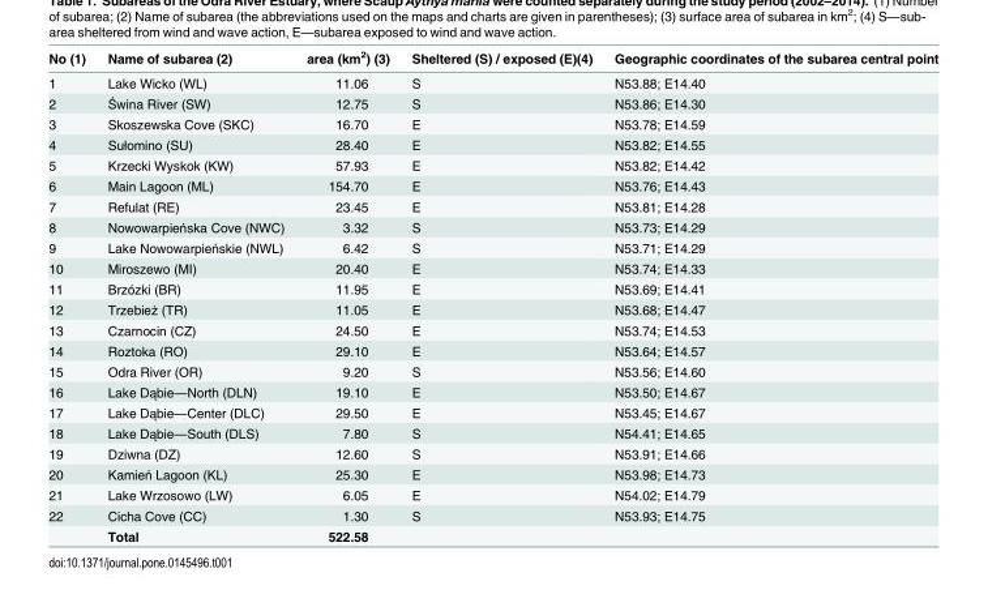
<table><thead><tr><td>No (1)</td><td>Name of subarea (2)</td><td>area (km<sup>2</sup>) (3)</td><td>Sheltered (S) / exposed (E)(4)</td><td>Geographic coordinates of the subarea central point</td></tr></thead><tbody><tr><td>1</td><td>Lake Wicko (WL)</td><td>11.06</td><td>S</td><td>N53.88; E14.40</td></tr><tr><td>2</td><td>Świna River (SW)</td><td>12.75</td><td>S</td><td>N53.86; E14.30</td></tr><tr><td>3</td><td>Skoszewska Cove (SKC)</td><td>16.70</td><td>E</td><td>N53.78; E14.59</td></tr><tr><td>4</td><td>Sułomino (SU)</td><td>28.40</td><td>E</td><td>N53.82; E14.55</td></tr><tr><td>5</td><td>Krzecki Wyskok (KW)</td><td>57.93</td><td>E</td><td>N53.82; E14.42</td></tr><tr><td>6</td><td>Main Lagoon (ML)</td><td>154.70</td><td>E</td><td>N53.76; E14.43</td></tr><tr><td>7</td><td>Refulat (RE)</td><td>23.45</td><td>E</td><td>N53.81; E14.28</td></tr><tr><td>8</td><td>Nowowarpieńska Cove (NWC)</td><td>3.32</td><td>S</td><td>N53.73; E14.29</td></tr><tr><td>9</td><td>Lake Nowowarpieńskie (NWL)</td><td>6.42</td><td>S</td><td>N53.71; E14.29</td></tr><tr><td>10</td><td>Miroszewo (MI)</td><td>20.40</td><td>E</td><td>N53.74; E14.33</td></tr><tr><td>11</td><td>Brzózki (BR)</td><td>11.95</td><td>E</td><td>N53.69; E14.41</td></tr><tr><td>12</td><td>Trzebież (TR)</td><td>11.05</td><td>E</td><td>N53.68; E14.47</td></tr><tr><td>13</td><td>Czarnocin (CZ)</td><td>24.50</td><td>E</td><td>N53.74; E14.53</td></tr><tr><td>14</td><td>Roztoka (RO)</td><td>29.10</td><td>E</td><td>N53.64; E14.57</td></tr><tr><td>15</td><td>Odra River (OR)</td><td>9.20</td><td>S</td><td>N53.56; E14.60</td></tr><tr><td>16</td><td>Lake Dąbie—North (DLN)</td><td>19.10</td><td>E</td><td>N53.50; E14.67</td></tr><tr><td>17</td><td>Lake Dąbie—Center (DLC)</td><td>29.50</td><td>E</td><td>N53.45; E14.67</td></tr><tr><td>18</td><td>Lake Dąbie—South (DLS)</td><td>7.80</td><td>S</td><td>N54.41; E14.65</td></tr><tr><td>19</td><td>Dziwna (DZ)</td><td>12.60</td><td>S</td><td>N53.91; E14.66</td></tr><tr><td>20</td><td>Kamień Lagoon (KL)</td><td>25.30</td><td>E</td><td>N53.98; E14.73</td></tr><tr><td>21</td><td>Lake Wrzosowo (LW)</td><td>6.05</td><td>E</td><td>N54.02; E14.79</td></tr><tr><td rowspan="2">22</td><td>Cicha Cove (CC)</td><td>1.30</td><td>S</td><td>N53.93; E14.75</td></tr><tr><td>Total</td><td>522.58</td><td></td><td></td></tr></tbody></table>